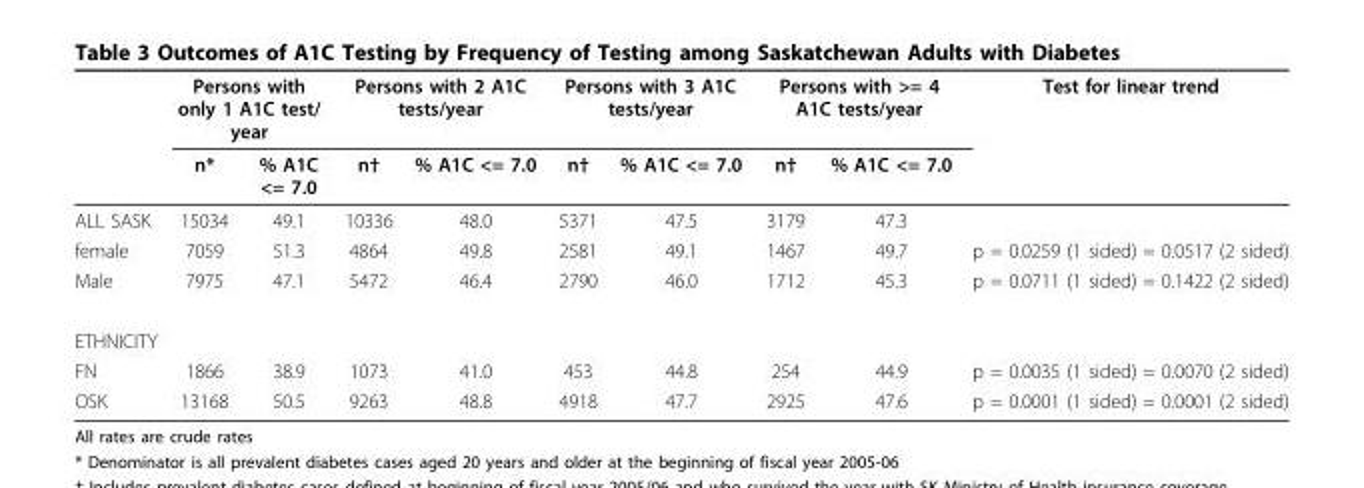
<table><thead><tr><td rowspan="2"></td><td colspan="2">Persons with only 1 A1C test/ year</td><td colspan="2">Persons with 2 A1C tests/year</td><td colspan="2">Persons with 3 A1C tests/year</td><td colspan="2">Persons with &gt;= 4 A1C tests/year</td><td rowspan="2">Test for linear trend</td></tr><tr><td>n*</td><td>% A1C &lt;= 7.0</td><td>n†</td><td>% A1C &lt;= 7.0</td><td>n†</td><td>% A1C &lt;= 7.0</td><td>n†</td><td>% A1C &lt;= 7.0</td></tr></thead><tbody><tr><td>ALL SASK</td><td>15034</td><td>49.1</td><td>10336</td><td>48.0</td><td>5371</td><td>47.5</td><td>3179</td><td>47.3</td><td></td></tr><tr><td>female</td><td>7059</td><td>51.3</td><td>4864</td><td>49.8</td><td>2581</td><td>49.1</td><td>1467</td><td>49.7</td><td>p = 0.0259 (1 sided) = 0.0517 (2 sided)</td></tr><tr><td>Male</td><td>7975</td><td>47.1</td><td>5472</td><td>46.4</td><td>2790</td><td>46.0</td><td>1712</td><td>45.3</td><td>p = 0.0711 (1 sided) = 0.1422 (2 sided)</td></tr><tr><td colspan="10">ETHNICITY</td></tr><tr><td>FN</td><td>1866</td><td>38.9</td><td>1073</td><td>41.0</td><td>453</td><td>44.8</td><td>254</td><td>44.9</td><td>p = 0.0035 (1 sided) = 0.0070 (2 sided)</td></tr><tr><td>OSK</td><td>13168</td><td>50.5</td><td>9263</td><td>48.8</td><td>4918</td><td>47.7</td><td>2925</td><td>47.6</td><td>p = 0.0001 (1 sided) = 0.0001 (2 sided)</td></tr></tbody></table>